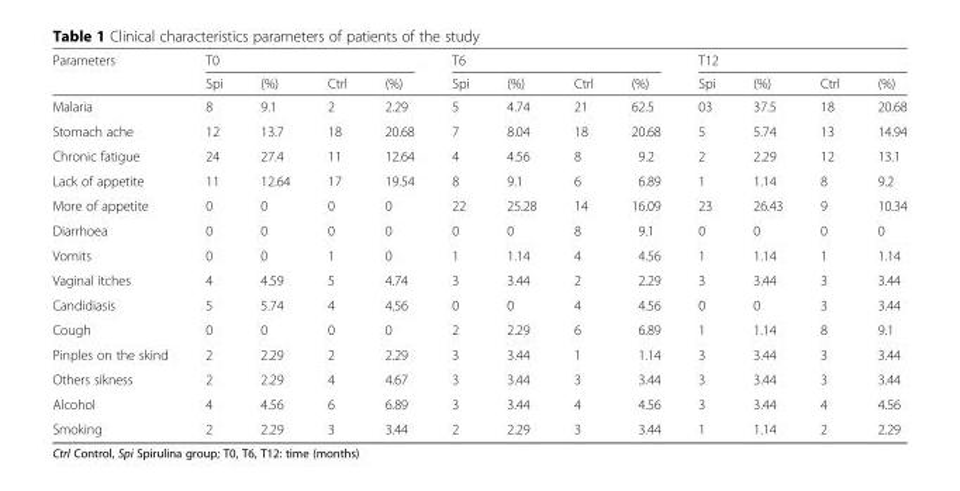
<table><thead><tr><td rowspan="2">Parameters</td><td colspan="4">T0</td><td colspan="4">T6</td><td colspan="4">T12</td></tr><tr><td>Spi</td><td>(%)</td><td>Ctrl</td><td>(%)</td><td>Spi</td><td>(%)</td><td>Ctrl</td><td>(%)</td><td>Spi</td><td>(%)</td><td>Ctrl</td><td>(%)</td></tr></thead><tbody><tr><td>Malaria</td><td>8</td><td>9.1</td><td>2</td><td>2.29</td><td>5</td><td>4.74</td><td>21</td><td>62.5</td><td>03</td><td>37.5</td><td>18</td><td>20.68</td></tr><tr><td>Stomach ache</td><td>12</td><td>13.7</td><td>18</td><td>20.68</td><td>7</td><td>8.04</td><td>18</td><td>20.68</td><td>5</td><td>5.74</td><td>13</td><td>14.94</td></tr><tr><td>Chronic fatigue</td><td>24</td><td>27.4</td><td>11</td><td>12.64</td><td>4</td><td>4.56</td><td>8</td><td>9.2</td><td>2</td><td>2.29</td><td>12</td><td>13.1</td></tr><tr><td>Lack of appetite</td><td>11</td><td>12.64</td><td>17</td><td>19.54</td><td>8</td><td>9.1</td><td>6</td><td>6.89</td><td>1</td><td>1.14</td><td>8</td><td>9.2</td></tr><tr><td>More of appetite</td><td>0</td><td>0</td><td>0</td><td>0</td><td>22</td><td>25.28</td><td>14</td><td>16.09</td><td>23</td><td>26.43</td><td>9</td><td>10.34</td></tr><tr><td>Diarrhoea</td><td>0</td><td>0</td><td>0</td><td>0</td><td>0</td><td>0</td><td>8</td><td>9.1</td><td>0</td><td>0</td><td>0</td><td>0</td></tr><tr><td>Vomits</td><td>0</td><td>0</td><td>1</td><td>0</td><td>1</td><td>1.14</td><td>4</td><td>4.56</td><td>1</td><td>1.14</td><td>1</td><td>1.14</td></tr><tr><td>Vaginal itches</td><td>4</td><td>4.59</td><td>5</td><td>4.74</td><td>3</td><td>3.44</td><td>2</td><td>2.29</td><td>3</td><td>3.44</td><td>3</td><td>3.44</td></tr><tr><td>Candidiasis</td><td>5</td><td>5.74</td><td>4</td><td>4.56</td><td>0</td><td>0</td><td>4</td><td>4.56</td><td>0</td><td>0</td><td>3</td><td>3.44</td></tr><tr><td>Cough</td><td>0</td><td>0</td><td>0</td><td>0</td><td>2</td><td>2.29</td><td>6</td><td>6.89</td><td>1</td><td>1.14</td><td>8</td><td>9.1</td></tr><tr><td>Pinples on the skind</td><td>2</td><td>2.29</td><td>2</td><td>2.29</td><td>3</td><td>3.44</td><td>1</td><td>1.14</td><td>3</td><td>3.44</td><td>3</td><td>3.44</td></tr><tr><td>Others sikness</td><td>2</td><td>2.29</td><td>4</td><td>4.67</td><td>3</td><td>3.44</td><td>3</td><td>3.44</td><td>3</td><td>3.44</td><td>3</td><td>3.44</td></tr><tr><td>Alcohol</td><td>4</td><td>4.56</td><td>6</td><td>6.89</td><td>3</td><td>3.44</td><td>4</td><td>4.56</td><td>3</td><td>3.44</td><td>4</td><td>4.56</td></tr><tr><td>Smoking</td><td>2</td><td>2.29</td><td>3</td><td>3.44</td><td>2</td><td>2.29</td><td>3</td><td>3.44</td><td>1</td><td>1.14</td><td>2</td><td>2.29</td></tr></tbody></table>